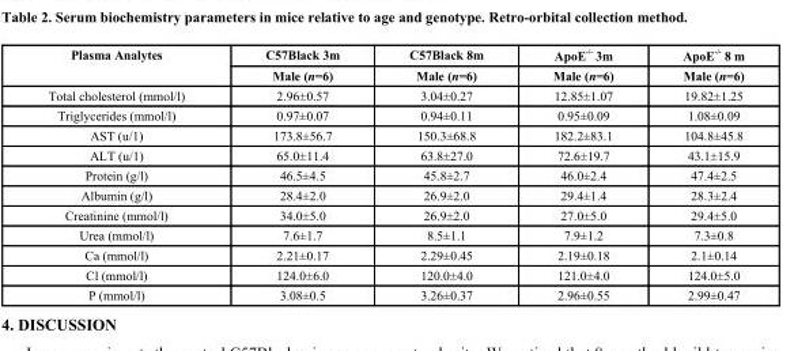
<table><thead><tr><td rowspan="2">Plasma Analytes</td><td rowspan="2">C57Black 3m Male (n=6)</td><td rowspan="2">C57Black 8m Male (n=6)</td><td rowspan="2">ApoE <sup>-/-</sup> 3m Male (n=6)</td><td rowspan="2">ApoE <sup>-/-</sup> 8 m Male (n=6)</td></tr><tr></tr></thead><tbody><tr><td>Total cholesterol (mmol/l)</td><td>2.96±0.57</td><td>3.04±0.27</td><td>12.85±1.07</td><td>19.82±1.25</td></tr><tr><td>Triglycerides (mmol/l)</td><td>0.97±0.07</td><td>0.94±0.11</td><td>0.95±0.09</td><td>1.08±0.09</td></tr><tr><td>AST (u/1)</td><td>173.8±56.7</td><td>150.3±68.8</td><td>182.2±83.1</td><td>104.8±45.8</td></tr><tr><td>ALT (u/1)</td><td>65.0±11.4</td><td>63.8±27.0</td><td>72.6±19.7</td><td>43.1±15.9</td></tr><tr><td>Protein (g/l)</td><td>46.5±4.5</td><td>45.8±2.7</td><td>46.0±2.4</td><td>47.4±2.5</td></tr><tr><td>Albumin (g/l)</td><td>28.4±2.0</td><td>26.9±2.0</td><td>29.4±1.4</td><td>28.3±2.4</td></tr><tr><td>Creatinine (mmol/l)</td><td>34.0±5.0</td><td>26.9±2.0</td><td>27.0±5.0</td><td>29.4±5.0</td></tr><tr><td>Urea (mmol/l)</td><td>7.6±1.7</td><td>8.5±1.1</td><td>7.9±1.2</td><td>7.3±0.8</td></tr><tr><td>Ca (mmol/l)</td><td>2.21±0.17</td><td>2.29±0.45</td><td>2.19±0.18</td><td>2.1±0.14</td></tr><tr><td>Cl (mmol/l)</td><td>124.0±6.0</td><td>120.0±4.0</td><td>121.0±4.0</td><td>124.0±5.0</td></tr><tr><td>P (mmol/l)</td><td>3.08±0.5</td><td>3.26±0.37</td><td>2.96±0.55</td><td>2.99±0.47</td></tr></tbody></table>